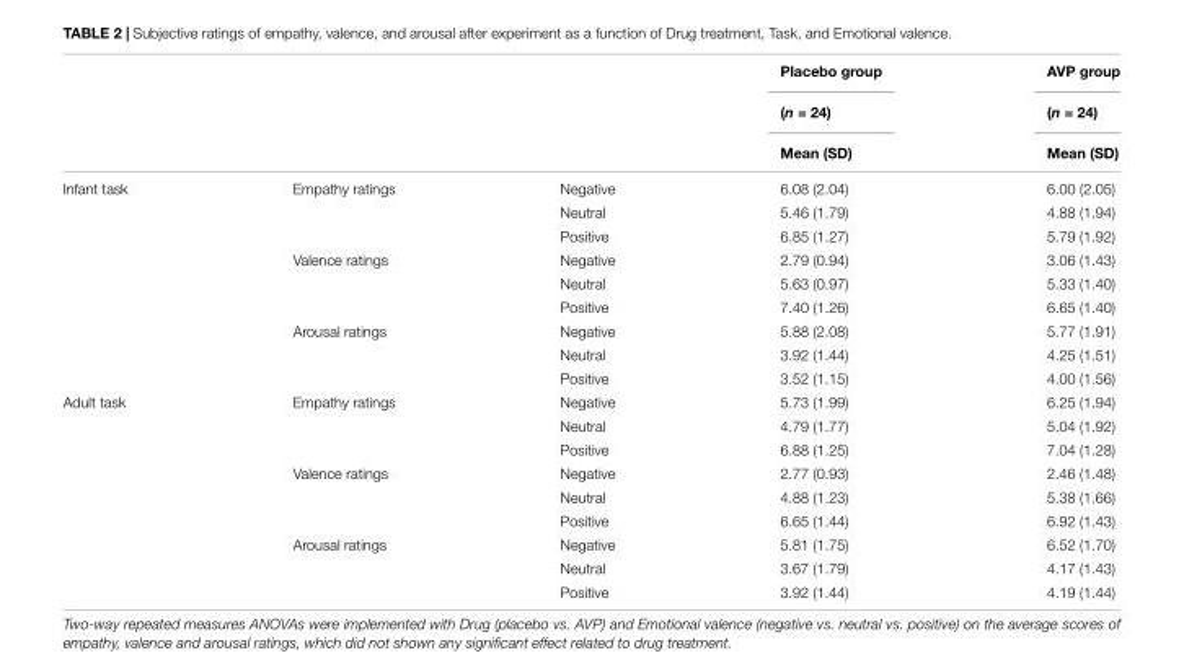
<table><thead><tr><td rowspan="3"></td><td rowspan="3"></td><td rowspan="3"></td><td rowspan="3">Placebo group (n = 24) Mean (SD)</td><td rowspan="3">AVP group (n = 24) Mean (SD)</td></tr><tr></tr><tr></tr></thead><tbody><tr><td rowspan="9">Infant task</td><td>Empathy ratings</td><td>Negative</td><td>6.08 (2.04)</td><td>6.00 (2.05)</td></tr><tr><td></td><td>Neutral</td><td>5.46 (1.79)</td><td>4.88 (1.94)</td></tr><tr><td></td><td>Positive</td><td>6.85 (1.27)</td><td>5.79 (1.92)</td></tr><tr><td>Valence ratings</td><td>Negative</td><td>2.79 (0.94)</td><td>3.06 (1.43)</td></tr><tr><td></td><td>Neutral</td><td>5.63 (0.97)</td><td>5.33 (1.40)</td></tr><tr><td></td><td>Positive</td><td>7.40 (1.26)</td><td>6.65 (1.40)</td></tr><tr><td>Arousal ratings</td><td>Negative</td><td>5.88 (2.08)</td><td>5.77 (1.91)</td></tr><tr><td></td><td>Neutral</td><td>3.92 (1.44)</td><td>4.25 (1.51)</td></tr><tr><td></td><td>Positive</td><td>3.52 (1.15)</td><td>4.00 (1.56)</td></tr><tr><td rowspan="9">Adult task</td><td>Empathy ratings</td><td>Negative</td><td>5.73 (1.99)</td><td>6.25 (1.94)</td></tr><tr><td></td><td>Neutral</td><td>4.79 (1.77)</td><td>5.04 (1.92)</td></tr><tr><td></td><td>Positive</td><td>6.88 (1.25)</td><td>7.04 (1.28)</td></tr><tr><td>Valence ratings</td><td>Negative</td><td>2.77 (0.93)</td><td>2.46 (1.48)</td></tr><tr><td></td><td>Neutral</td><td>4.88 (1.23)</td><td>5.38 (1.66)</td></tr><tr><td></td><td>Positive</td><td>6.65 (1.44)</td><td>6.92 (1.43)</td></tr><tr><td>Arousal ratings</td><td>Negative</td><td>5.81 (1.75)</td><td>6.52 (1.70)</td></tr><tr><td></td><td>Neutral</td><td>3.67 (1.79)</td><td>4.17 (1.43)</td></tr><tr><td></td><td>Positive</td><td>3.92 (1.44)</td><td>4.19 (1.44)</td></tr></tbody></table>